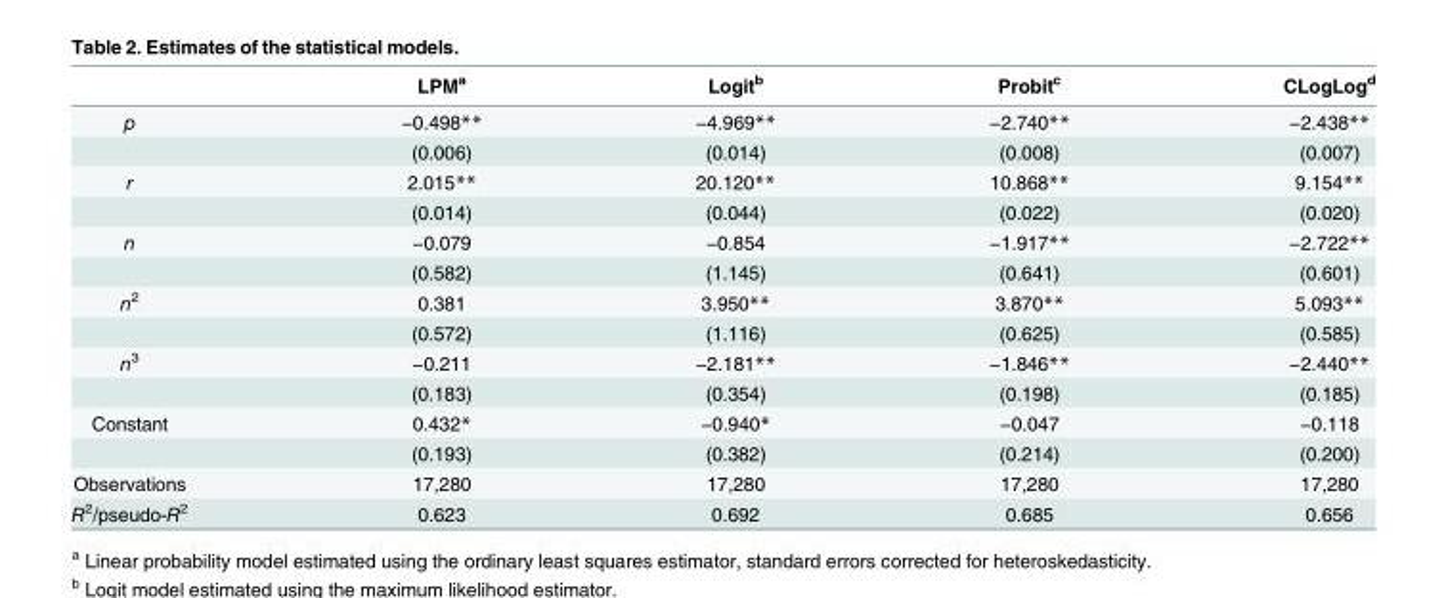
<table><thead><tr><td></td><td>LPM<sup>a</sup></td><td>Logit<sup>b</sup></td><td>Probit<sup>c</sup></td><td>CLogLog<sup>d</sup></td></tr></thead><tbody><tr><td rowspan="2">p</td><td>−0.498**</td><td>−4.969**</td><td>−2.740**</td><td>−2.438**</td></tr><tr><td>(0.006)</td><td>(0.014)</td><td>(0.008)</td><td>(0.007)</td></tr><tr><td rowspan="2">r</td><td>2.015**</td><td>20.120**</td><td>10.868**</td><td>9.154**</td></tr><tr><td>(0.014)</td><td>(0.044)</td><td>(0.022)</td><td>(0.020)</td></tr><tr><td rowspan="2">n</td><td>−0.079</td><td>−0.854</td><td>−1.917**</td><td>−2.722**</td></tr><tr><td>(0.582)</td><td>(1.145)</td><td>(0.641)</td><td>(0.601)</td></tr><tr><td rowspan="2">n<sup>2</sup></td><td>0.381</td><td>3.950**</td><td>3.870**</td><td>5.093**</td></tr><tr><td>(0.572)</td><td>(1.116)</td><td>(0.625)</td><td>(0.585)</td></tr><tr><td rowspan="2">n<sup>3</sup></td><td>−0.211</td><td>−2.181**</td><td>−1.846**</td><td>−2.440**</td></tr><tr><td>(0.183)</td><td>(0.354)</td><td>(0.198)</td><td>(0.185)</td></tr><tr><td rowspan="2">Constant</td><td>0.432*</td><td>−0.940*</td><td>−0.047</td><td>−0.118</td></tr><tr><td>(0.193)</td><td>(0.382)</td><td>(0.214)</td><td>(0.200)</td></tr><tr><td>Observations</td><td>17,280</td><td>17,280</td><td>17,280</td><td>17,280</td></tr><tr><td>R<sup>2</sup>/pseudo-R<sup>2</sup></td><td>0.623</td><td>0.692</td><td>0.685</td><td>0.656</td></tr></tbody></table>